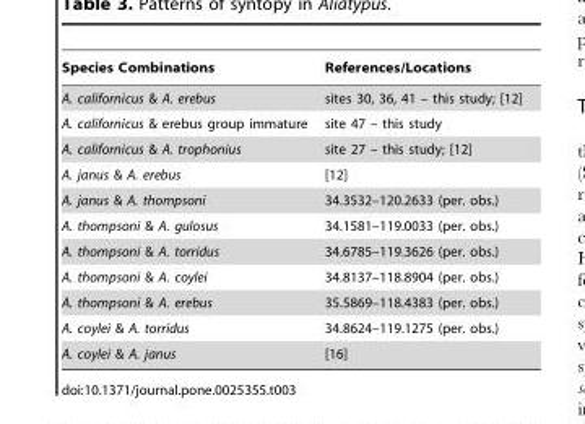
<table><thead><tr><td>Species Combinations</td><td>References/Locations</td></tr></thead><tbody><tr><td>A. californicus &amp; A. erebus</td><td>sites 30, 36, 41 – this study; [12]</td></tr><tr><td>A. californicus &amp; erebus group immature</td><td>site 47 – this study</td></tr><tr><td>A. californicus &amp; A. trophonius</td><td>site 27 – this study; [12]</td></tr><tr><td>A. janus &amp; A. erebus</td><td>[12]</td></tr><tr><td>A. janus &amp; A. thompsoni</td><td>34.3532–120.2633 (per. obs.)</td></tr><tr><td>A. thompsoni &amp; A. gulosus</td><td>34.1581–119.0033 (per. obs.)</td></tr><tr><td>A. thompsoni &amp; A. torridus</td><td>34.6785–119.3626 (per. obs.)</td></tr><tr><td>A. thompsoni &amp; A. coylei</td><td>34.8137–118.8904 (per. obs.)</td></tr><tr><td>A. thompsoni &amp; A. erebus</td><td>35.5869–118.4383 (per. obs.)</td></tr><tr><td>A. coylei &amp; A. torridus</td><td>34.8624–119.1275 (per. obs.)</td></tr><tr><td>A. coylei &amp; A. janus</td><td>[16]</td></tr></tbody></table>